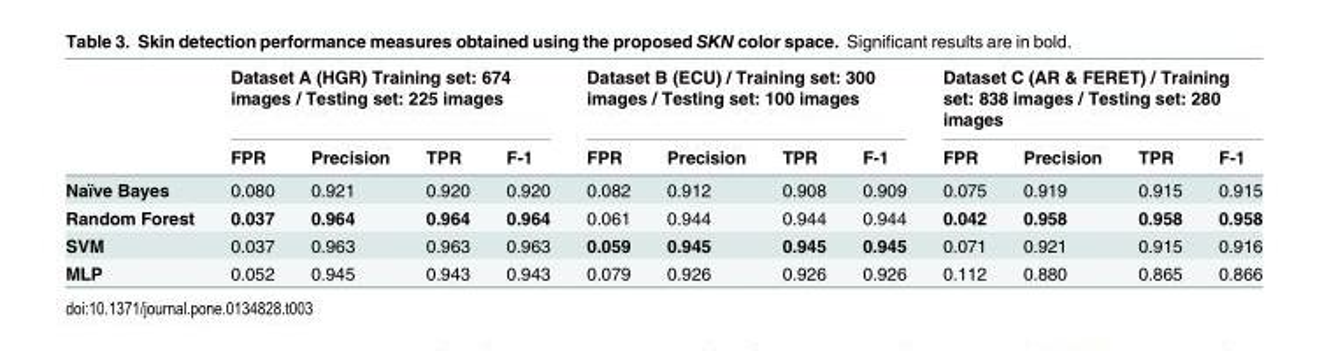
<table><thead><tr><td rowspan="2"></td><td colspan="4">Dataset A (HGR) Training set: 674 images / Testing set: 225 images</td><td colspan="4">Dataset B (ECU) / Training set: 300 images / Testing set: 100 images</td><td colspan="4">Dataset C (AR &amp; FERET) / Training set: 838 images / Testing set: 280 images</td></tr><tr><td>FPR</td><td>Precision</td><td>TPR</td><td>F-1</td><td>FPR</td><td>Precision</td><td>TPR</td><td>F-1</td><td>FPR</td><td>Precision</td><td>TPR</td><td>F-1</td></tr></thead><tbody><tr><td>Naïve Bayes</td><td>0.080</td><td>0.921</td><td>0.920</td><td>0.920</td><td>0.082</td><td>0.912</td><td>0.908</td><td>0.909</td><td>0.075</td><td>0.919</td><td>0.915</td><td>0.915</td></tr><tr><td>Random Forest</td><td>0.037</td><td>0.964</td><td>0.964</td><td>0.964</td><td>0.061</td><td>0.944</td><td>0.944</td><td>0.944</td><td>0.042</td><td>0.958</td><td>0.958</td><td>0.958</td></tr><tr><td>SVM</td><td>0.037</td><td>0.963</td><td>0.963</td><td>0.963</td><td>0.059</td><td>0.945</td><td>0.945</td><td>0.945</td><td>0.071</td><td>0.921</td><td>0.915</td><td>0.916</td></tr><tr><td>MLP</td><td>0.052</td><td>0.945</td><td>0.943</td><td>0.943</td><td>0.079</td><td>0.926</td><td>0.926</td><td>0.926</td><td>0.112</td><td>0.880</td><td>0.865</td><td>0.866</td></tr></tbody></table>